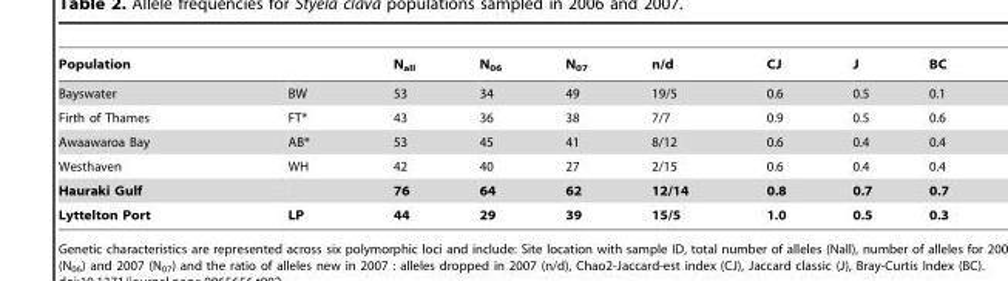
<table><thead><tr><td>Population</td><td></td><td>N<sub>all</sub></td><td>N<sub>06</sub></td><td>N<sub>07</sub></td><td>n/d</td><td>CJ</td><td>J</td><td>BC</td></tr></thead><tbody><tr><td>Bayswater</td><td>BW</td><td>53</td><td>34</td><td>49</td><td>19/5</td><td>0.6</td><td>0.5</td><td>0.1</td></tr><tr><td>Firth of Thames</td><td>FT*</td><td>43</td><td>36</td><td>38</td><td>7/7</td><td>0.9</td><td>0.5</td><td>0.6</td></tr><tr><td>Awaawaroa Bay</td><td>AB*</td><td>53</td><td>45</td><td>41</td><td>8/12</td><td>0.6</td><td>0.4</td><td>0.4</td></tr><tr><td>Westhaven</td><td>WH</td><td>42</td><td>40</td><td>27</td><td>2/15</td><td>0.6</td><td>0.4</td><td>0.4</td></tr><tr><td>Hauraki Gulf</td><td></td><td>76</td><td>64</td><td>62</td><td>12/14</td><td>0.8</td><td>0.7</td><td>0.7</td></tr><tr><td>Lyttelton Port</td><td>LP</td><td>44</td><td>29</td><td>39</td><td>15/5</td><td>1.0</td><td>0.5</td><td>0.3</td></tr></tbody></table>